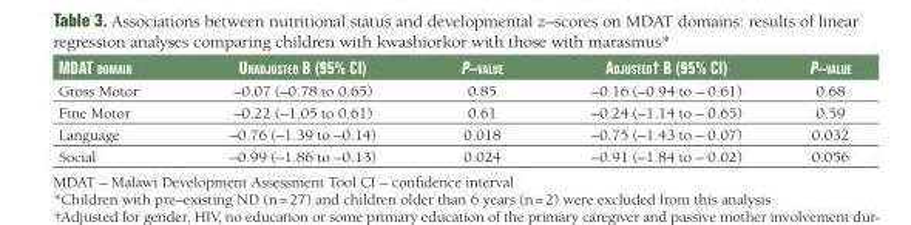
<table><thead><tr><td>MDat DoMain</td><td>unaDjusteD B (95% Ci)</td><td>P–value</td><td>aDjusteD† B (95% Ci)</td><td>P–value</td></tr></thead><tbody><tr><td>Gross Motor</td><td>–0.07 (–0.78 to 0.65)</td><td>0.85</td><td>–0.16 (–0.94 to – 0.61)</td><td>0.68</td></tr><tr><td>Fine Motor</td><td>–0.22 (–1.05 to 0.61)</td><td>0.61</td><td>–0.24 (–1.14 to – 0.65)</td><td>0.59</td></tr><tr><td>Language</td><td>–0.76 (–1.39 to –0.14)</td><td>0.018</td><td>–0.75 (–1.43 to – 0.07)</td><td>0.032</td></tr><tr><td>Social</td><td>–0.99 (–1.86 to –0.13)</td><td>0.024</td><td>–0.91 (–1.84 to – 0.02)</td><td>0.056</td></tr></tbody></table>